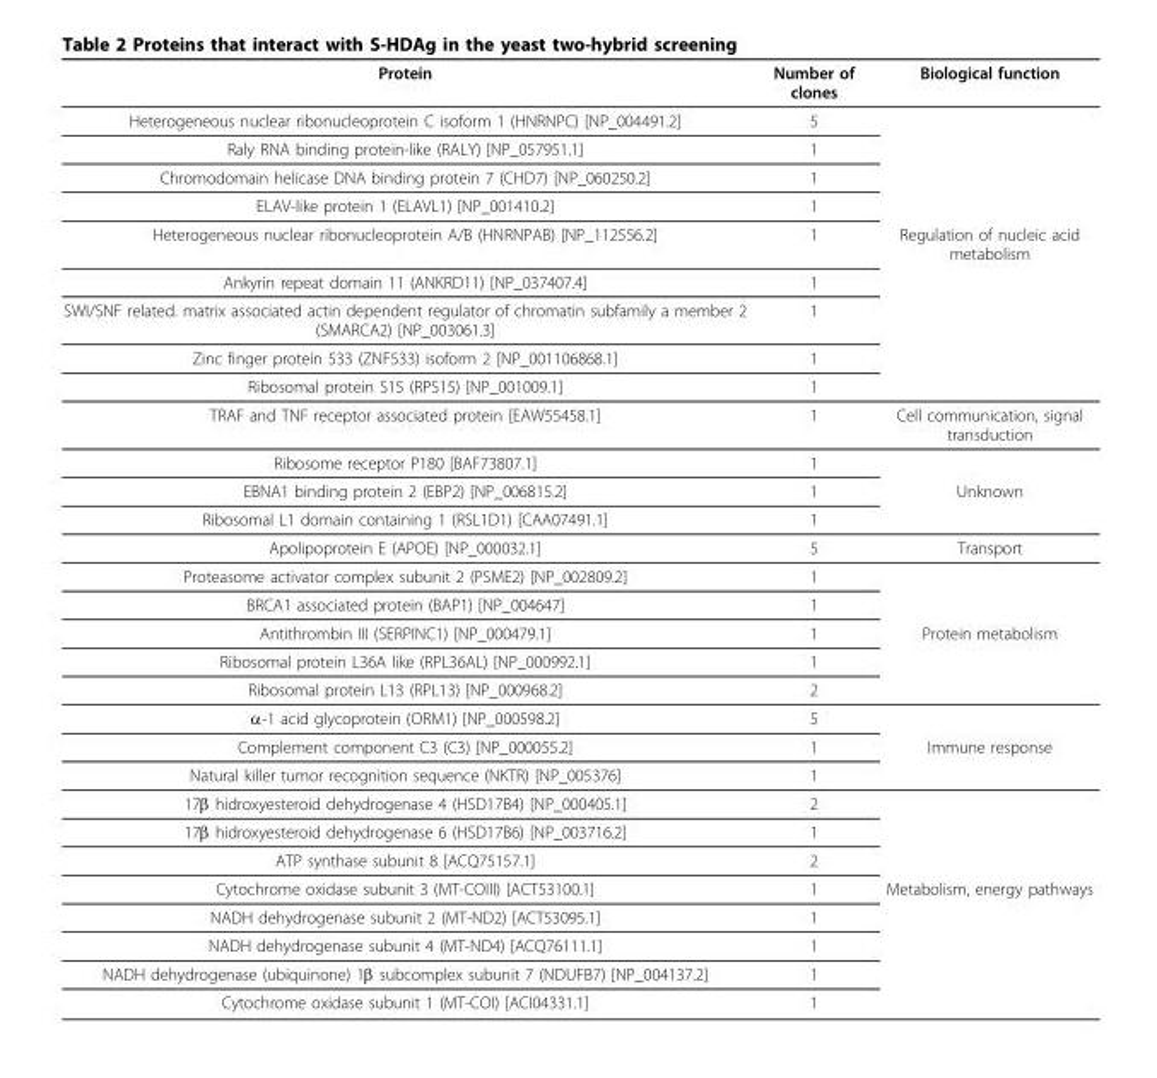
<table><thead><tr><td>Protein</td><td>Number of clones</td><td>Biological function</td></tr></thead><tbody><tr><td>Heterogeneous nuclear ribonucleoprotein C isoform 1 (HNRNPC) [NP_004491.2]</td><td>5</td><td></td></tr><tr><td>Raly RNA binding protein-like (RALY) [NP_057951.1]</td><td>1</td><td></td></tr><tr><td>Chromodomain helicase DNA binding protein 7 (CHD7) [NP_060250.2]</td><td>1</td><td></td></tr><tr><td>ELAV-like protein 1 (ELAVL1) [NP_001410.2]</td><td>1</td><td></td></tr><tr><td>Heterogeneous nuclear ribonucleoprotein A/B (HNRNPAB) [NP_112556.2]</td><td>1</td><td>Regulation of nucleic acid metabolism</td></tr><tr><td>Ankyrin repeat domain 11 (ANKRD11) [NP_037407.4]</td><td>1</td><td></td></tr><tr><td>SWI/SNF related. matrix associated actin dependent regulator of chromatin subfamily a member 2 (SMARCA2) [NP_003061.3]</td><td>1</td><td></td></tr><tr><td>Zinc finger proteín 533 (ZNF533) isoform 2 [NP_001106868.1]</td><td>1</td><td></td></tr><tr><td>Ribosomal protein S15 (RPS15) [NP_001009.1]</td><td>1</td><td></td></tr><tr><td>TRAF and TNF receptor associated protein [EAW55458.1]</td><td>1</td><td>Cell communication, signal transduction</td></tr><tr><td>Ribosome receptor P180 [BAF73807.1]</td><td>1</td><td></td></tr><tr><td>EBNA1 binding protein 2 (EBP2) [NP_006815.2]</td><td>1</td><td>Unknown</td></tr><tr><td>Ribosomal L1 domain containing 1 (RSL1D1) [CAA07491.1]</td><td>1</td><td></td></tr><tr><td>Apolipoprotein E (APOE) [NP_000032.1]</td><td>5</td><td>Transport</td></tr><tr><td>Proteasome activator complex subunit 2 (PSME2) [NP_002809.2]</td><td>1</td><td></td></tr><tr><td>BRCA1 associated protein (BAP1) [NP_004647]</td><td>1</td><td></td></tr><tr><td>Antithrombin III (SERPINC1) [NP_000479.1]</td><td>1</td><td>Protein metabolism</td></tr><tr><td>Ribosomal protein L36A like (RPL36AL) [NP_000992.1]</td><td>1</td><td></td></tr><tr><td>Ribosomal protein L13 (RPL13) [NP_000968.2]</td><td>2</td><td></td></tr><tr><td>α-1 acid glycoprotein (ORM1) [NP_000598.2]</td><td>5</td><td></td></tr><tr><td>Complement component C3 (C3) [NP_000055.2]</td><td>1</td><td>Immune response</td></tr><tr><td>Natural killer tumor recognition sequence (NKTR) [NP_005376]</td><td>1</td><td></td></tr><tr><td>17β hidroxyesteroid dehydrogenase 4 (HSD17B4) [NP_000405.1]</td><td>2</td><td></td></tr><tr><td>17β hidroxyesteroid dehydrogenase 6 (HSD17B6) [NP_003716.2]</td><td>1</td><td></td></tr><tr><td>ATP synthase subunit 8 [ACQ75157.1]</td><td>2</td><td></td></tr><tr><td>Cytochrome oxidase subunit 3 (MT-COIII) [ACT53100.1]</td><td>1</td><td>Metabolism, energy pathways</td></tr><tr><td>NADH dehydrogenase subunit 2 (MT-ND2) [ACT53095.1]</td><td>1</td><td></td></tr><tr><td>NADH dehydrogenase subunit 4 (MT-ND4) [ACQ76111.1]</td><td>1</td><td></td></tr><tr><td>NADH dehydrogenase (ubiquinone) 1β subcomplex subunit 7 (NDUFB7) [NP_004137.2]</td><td>1</td><td></td></tr><tr><td>Cytochrome oxidase subunit 1 (MT-COI) [ACI04331.1]</td><td>1</td><td></td></tr></tbody></table>